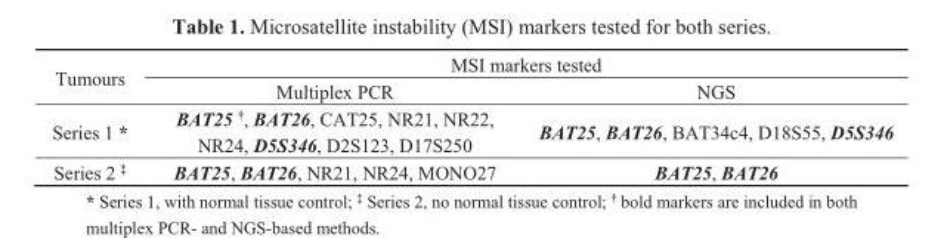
<table><thead><tr><td rowspan="2">Tumours</td><td colspan="2">MSI markers tested</td></tr><tr><td>Multiplex PCR</td><td>NGS</td></tr></thead><tbody><tr><td>Series 1 *</td><td>BAT25 <sup>†</sup>, BAT26, CAT25, NR21, NR22, NR24, D5S346, D2S123, D17S250</td><td>BAT25, BAT26, BAT34c4, D18S55, D5S346</td></tr><tr><td>Series 2 <sup>‡</sup></td><td>BAT25, BAT26, NR21, NR24, MONO27</td><td>BAT25, BAT26</td></tr></tbody></table>